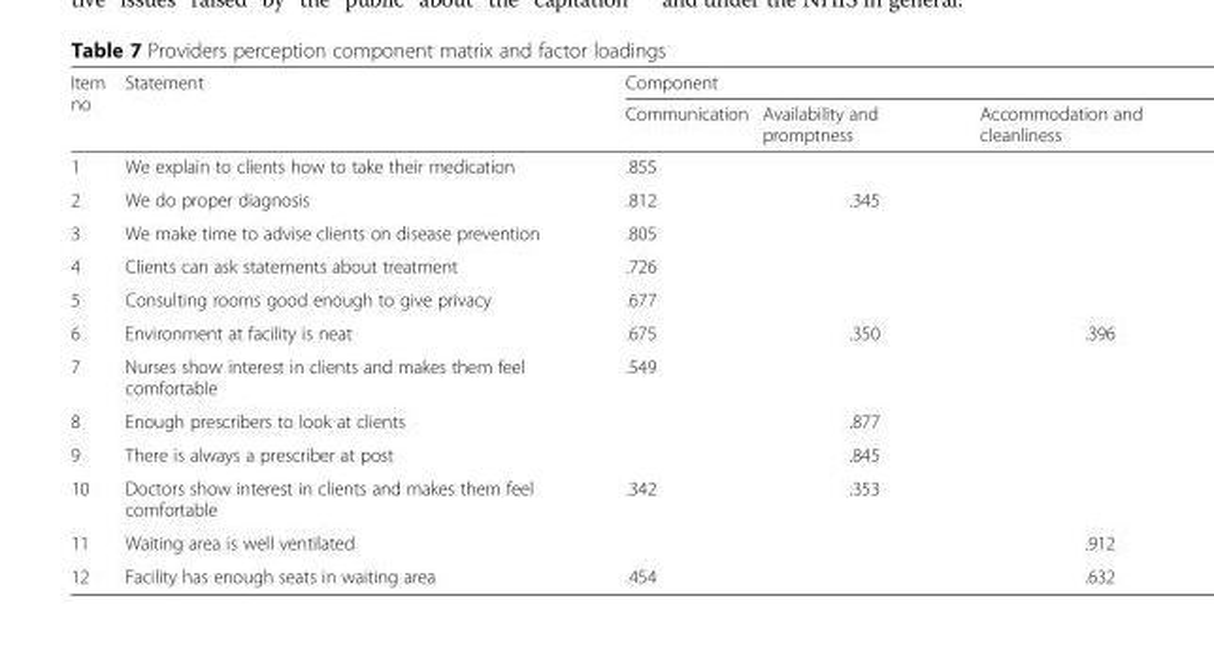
<table><thead><tr><td rowspan="2">Item no</td><td rowspan="2">Statement</td><td colspan="3">Component</td></tr><tr><td>Communication</td><td>Availability and promptness</td><td>Accommodation and cleanliness</td></tr></thead><tbody><tr><td>1</td><td>We explain to clients how to take their medication</td><td>.855</td><td></td><td></td></tr><tr><td>2</td><td>We do proper diagnosis</td><td>.812</td><td>.345</td><td></td></tr><tr><td>3</td><td>We make time to advise clients on disease prevention</td><td>.805</td><td></td><td></td></tr><tr><td>4</td><td>Clients can ask statements about treatment</td><td>.726</td><td></td><td></td></tr><tr><td>5</td><td>Consulting rooms good enough to give privacy</td><td>.677</td><td></td><td></td></tr><tr><td>6</td><td>Environment at facility is neat</td><td>.675</td><td>.350</td><td>.396</td></tr><tr><td>7</td><td>Nurses show interest in clients and makes them feel comfortable</td><td>.549</td><td></td><td></td></tr><tr><td>8</td><td>Enough prescribers to look at clients</td><td></td><td>.877</td><td></td></tr><tr><td>9</td><td>There is always a prescriber at post</td><td></td><td>.845</td><td></td></tr><tr><td>10</td><td>Doctors show interest in clients and makes them feel comfortable</td><td>.342</td><td>.353</td><td></td></tr><tr><td>11</td><td>Waiting area is well ventilated</td><td></td><td></td><td>.912</td></tr><tr><td>12</td><td>Facility has enough seats in waiting area</td><td>.454</td><td></td><td>.632</td></tr></tbody></table>